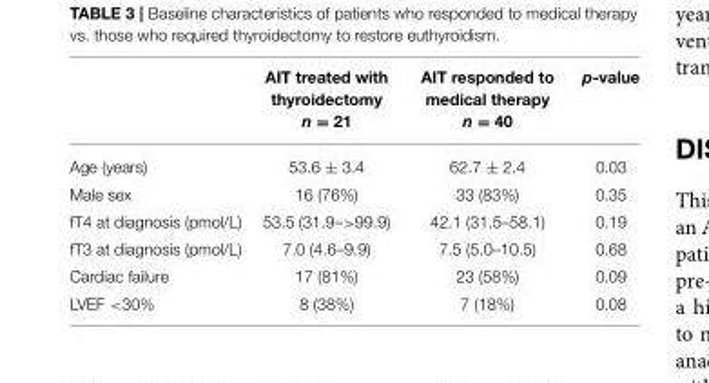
<table><thead><tr><td></td><td>AIT treated with thyroidectomy n = 21</td><td>AIT responded to medical therapy n = 40</td><td>p-value</td></tr></thead><tbody><tr><td>Age (years)</td><td>53.6 ± 3.4</td><td>62.7 ± 2.4</td><td>0.03</td></tr><tr><td>Male sex</td><td>16 (76%)</td><td>33 (83%)</td><td>0.35</td></tr><tr><td>fT4 at diagnosis (pmol/L)</td><td>53.5 (31.9–&gt;99.9)</td><td>42.1 (31.5–58.1)</td><td>0.19</td></tr><tr><td>fT3 at diagnosis (pmol/L)</td><td>7.0 (4.6–9.9)</td><td>7.5 (5.0–10.5)</td><td>0.68</td></tr><tr><td>Cardiac failure</td><td>17 (81%)</td><td>23 (58%)</td><td>0.09</td></tr><tr><td>LVEF &lt;30%</td><td>8 (38%)</td><td>7 (18%)</td><td>0.08</td></tr></tbody></table>